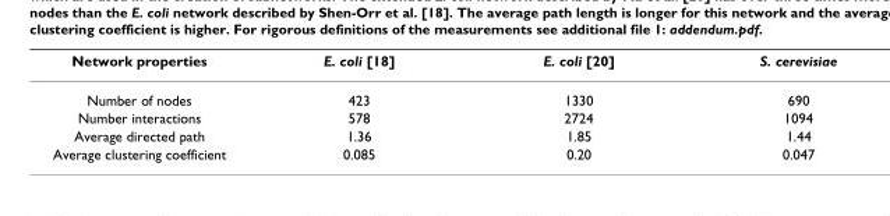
<table><thead><tr><td>Network properties</td><td>E. coli [18]</td><td>E. coli [20]</td><td>S. cerevisiae</td></tr></thead><tbody><tr><td>Number of nodes</td><td>423</td><td>1330</td><td>690</td></tr><tr><td>Number interactions</td><td>578</td><td>2724</td><td>1094</td></tr><tr><td>Average directed path</td><td>1.36</td><td>1.85</td><td>1.44</td></tr><tr><td>Average clustering coefficient</td><td>0.085</td><td>0.20</td><td>0.047</td></tr></tbody></table>